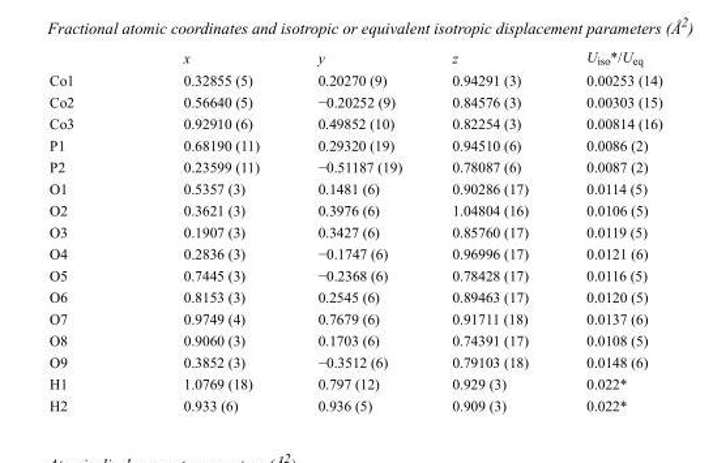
<table><thead><tr><td></td><td>x</td><td>y</td><td>z</td><td>U<sub>iso</sub>*/U<sub>eq</sub></td></tr></thead><tbody><tr><td>Co1</td><td>0.32855 (5)</td><td>0.20270 (9)</td><td>0.94291 (3)</td><td>0.00253 (14)</td></tr><tr><td>Co2</td><td>0.56640 (5)</td><td>−0.20252 (9)</td><td>0.84576 (3)</td><td>0.00303 (15)</td></tr><tr><td>Co3</td><td>0.92910 (6)</td><td>0.49852 (10)</td><td>0.82254 (3)</td><td>0.00814 (16)</td></tr><tr><td>P1</td><td>0.68190 (11)</td><td>0.29320 (19)</td><td>0.94510 (6)</td><td>0.0086 (2)</td></tr><tr><td>P2</td><td>0.23599 (11)</td><td>−0.51187 (19)</td><td>0.78087 (6)</td><td>0.0087 (2)</td></tr><tr><td>O1</td><td>0.5357 (3)</td><td>0.1481 (6)</td><td>0.90286 (17)</td><td>0.0114 (5)</td></tr><tr><td>O2</td><td>0.3621 (3)</td><td>0.3976 (6)</td><td>1.04804 (16)</td><td>0.0106 (5)</td></tr><tr><td>O3</td><td>0.1907 (3)</td><td>0.3427 (6)</td><td>0.85760 (17)</td><td>0.0119 (5)</td></tr><tr><td>O4</td><td>0.2836 (3)</td><td>−0.1747 (6)</td><td>0.96996 (17)</td><td>0.0121 (6)</td></tr><tr><td>O5</td><td>0.7445 (3)</td><td>−0.2368 (6)</td><td>0.78428 (17)</td><td>0.0116 (5)</td></tr><tr><td>O6</td><td>0.8153 (3)</td><td>0.2545 (6)</td><td>0.89463 (17)</td><td>0.0120 (5)</td></tr><tr><td>O7</td><td>0.9749 (4)</td><td>0.7679 (6)</td><td>0.91711 (18)</td><td>0.0137 (6)</td></tr><tr><td>O8</td><td>0.9060 (3)</td><td>0.1703 (6)</td><td>0.74391 (17)</td><td>0.0108 (5)</td></tr><tr><td>O9</td><td>0.3852 (3)</td><td>−0.3512 (6)</td><td>0.79103 (18)</td><td>0.0148 (6)</td></tr><tr><td>H1</td><td>1.0769 (18)</td><td>0.797 (12)</td><td>0.929 (3)</td><td>0.022*</td></tr><tr><td>H2</td><td>0.933 (6)</td><td>0.936 (5)</td><td>0.909 (3)</td><td>0.022*</td></tr></tbody></table>